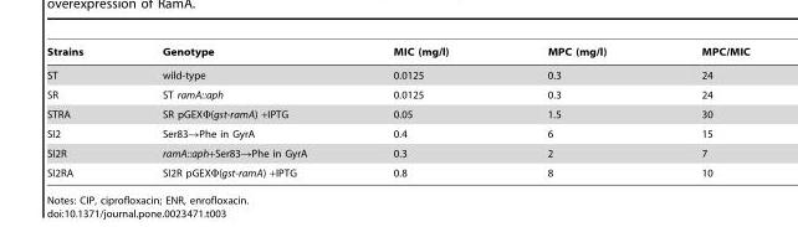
<table><thead><tr><td>Strains</td><td>Genotype</td><td>MIC (mg/l)</td><td>MPC (mg/l)</td><td>MPC/MIC</td></tr></thead><tbody><tr><td>ST</td><td>wild-type</td><td>0.0125</td><td>0.3</td><td>24</td></tr><tr><td>SR</td><td>ST ramA::aph</td><td>0.0125</td><td>0.3</td><td>24</td></tr><tr><td>STRA</td><td>SR pGEXΦ(gst-ramA) +IPTG</td><td>0.05</td><td>1.5</td><td>30</td></tr><tr><td>SI2</td><td>Ser83→Phe in GyrA</td><td>0.4</td><td>6</td><td>15</td></tr><tr><td>SI2R</td><td>ramA::aph+Ser83→Phe in GyrA</td><td>0.3</td><td>2</td><td>7</td></tr><tr><td>SI2RA</td><td>SI2R pGEXΦ(gst-ramA) +IPTG</td><td>0.8</td><td>8</td><td>10</td></tr></tbody></table>